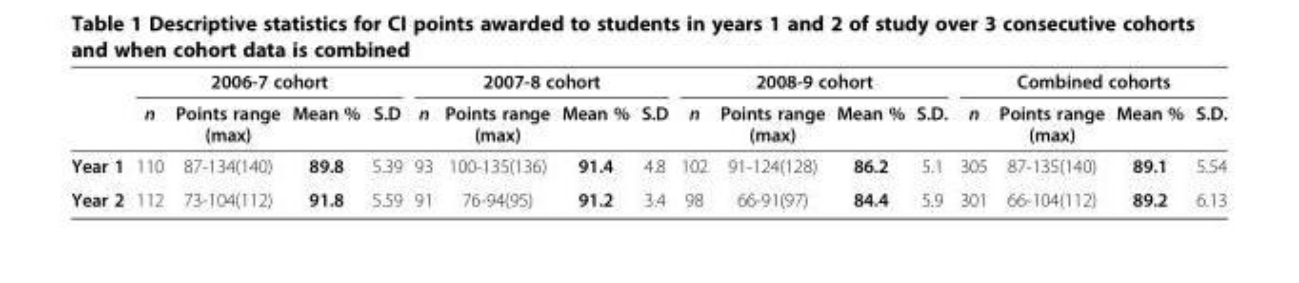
<table><thead><tr><td rowspan="2"></td><td colspan="4">2006-7 cohort</td><td colspan="4">2007-8 cohort</td><td colspan="4">2008-9 cohort</td><td colspan="4">Combined cohorts</td></tr><tr><td>n</td><td>Points range (max)</td><td>Mean %</td><td>S.D</td><td>n</td><td>Points range (max)</td><td>Mean %</td><td>S.D</td><td>n</td><td>Points range (max)</td><td>Mean %</td><td>S.D.</td><td>n</td><td>Points range (max)</td><td>Mean %</td><td>S.D.</td></tr></thead><tbody><tr><td>Year 1</td><td>110</td><td>87-134(140)</td><td>89.8</td><td>5.39</td><td>93</td><td>100-135(136)</td><td>91.4</td><td>4.8</td><td>102</td><td>91-124(128)</td><td>86.2</td><td>5.1</td><td>305</td><td>87-135(140)</td><td>89.1</td><td>5.54</td></tr><tr><td>Year 2</td><td>112</td><td>73-104(112)</td><td>91.8</td><td>5.59</td><td>91</td><td>76-94(95)</td><td>91.2</td><td>3.4</td><td>98</td><td>66-91(97)</td><td>84.4</td><td>5.9</td><td>301</td><td>66-104(112)</td><td>89.2</td><td>6.13</td></tr></tbody></table>